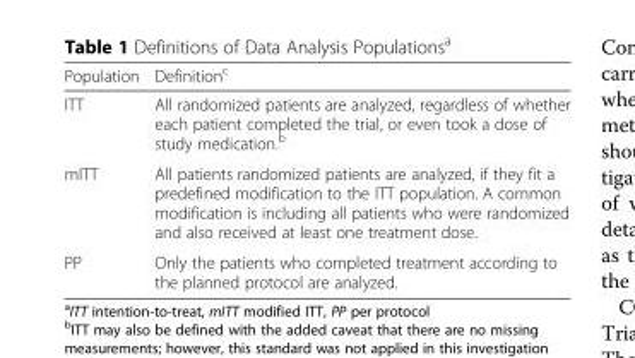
<table><thead><tr><td>Population</td><td>Definition<sup>c</sup></td></tr></thead><tbody><tr><td>ITT</td><td>All randomized patients are analyzed, regardless of whether each patient completed the trial, or even took a dose of study medication.<sup>b</sup></td></tr><tr><td>mITT</td><td>All patients randomized patients are analyzed, if they fit a predefined modification to the ITT population. A common modification is including all patients who were randomized and also received at least one treatment dose.</td></tr><tr><td>PP</td><td>Only the patients who completed treatment according to the planned protocol are analyzed.</td></tr></tbody></table>